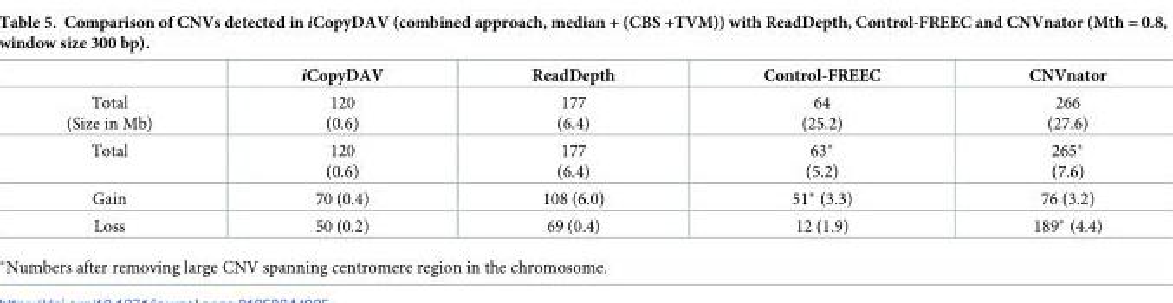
<table><thead><tr><td></td><td>iCopyDAV</td><td>ReadDepth</td><td>Control-FREEC</td><td>CNVnator</td></tr></thead><tbody><tr><td>Total (Size in Mb)</td><td>120 (0.6)</td><td>177 (6.4)</td><td>64 (25.2)</td><td>266 (27.6)</td></tr><tr><td>Total</td><td>120 (0.6)</td><td>177 (6.4)</td><td>63* (5.2)</td><td>265* (7.6)</td></tr><tr><td>Gain</td><td>70 (0.4)</td><td>108 (6.0)</td><td>51* (3.3)</td><td>76 (3.2)</td></tr><tr><td>Loss</td><td>50 (0.2)</td><td>69 (0.4)</td><td>12 (1.9)</td><td>189* (4.4)</td></tr></tbody></table>